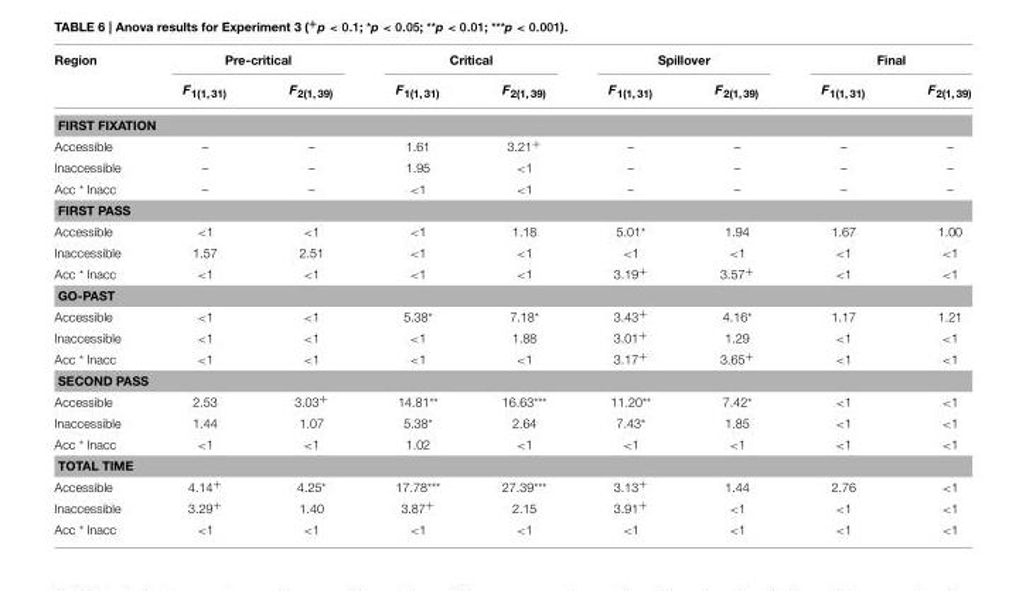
<table><thead><tr><td rowspan="2">Region</td><td colspan="2">Pre-critical</td><td colspan="2">Critical</td><td colspan="2">Spillover</td><td colspan="2">Final</td></tr><tr><td>F<sub>1(1, 31)</sub></td><td>F<sub>2(1, 39)</sub></td><td>F<sub>1(1, 31)</sub></td><td>F<sub>2(1, 39)</sub></td><td>F<sub>1(1, 31)</sub></td><td>F<sub>2(1, 39)</sub></td><td>F<sub>1(1, 31)</sub></td><td>F<sub>2(1, 39)</sub></td></tr></thead><tbody><tr><td colspan="9">FIRST FIXATION</td></tr><tr><td>Accessible</td><td>–</td><td>–</td><td>1.61</td><td>3.21<sup>+</sup></td><td>–</td><td>–</td><td>–</td><td>–</td></tr><tr><td>Inaccessible</td><td>–</td><td>–</td><td>1.95</td><td>&lt;1</td><td>–</td><td>–</td><td>–</td><td>–</td></tr><tr><td>Acc * Inacc</td><td>–</td><td>–</td><td>&lt;1</td><td>&lt;1</td><td>–</td><td>–</td><td>–</td><td>–</td></tr><tr><td colspan="9">FIRST PASS</td></tr><tr><td>Accessible</td><td>&lt;1</td><td>&lt;1</td><td>&lt;1</td><td>1.18</td><td>5.01*</td><td>1.94</td><td>1.67</td><td>1.00</td></tr><tr><td>Inaccessible</td><td>1.57</td><td>2.51</td><td>&lt;1</td><td>&lt;1</td><td>&lt;1</td><td>&lt;1</td><td>&lt;1</td><td>&lt;1</td></tr><tr><td>Acc * Inacc</td><td>&lt;1</td><td>&lt;1</td><td>&lt;1</td><td>&lt;1</td><td>3.19<sup>+</sup></td><td>3.57<sup>+</sup></td><td>&lt;1</td><td>&lt;1</td></tr><tr><td colspan="9">GO-PAST</td></tr><tr><td>Accessible</td><td>&lt;1</td><td>&lt;1</td><td>5.38*</td><td>7.18*</td><td>3.43<sup>+</sup></td><td>4.16*</td><td>1.17</td><td>1.21</td></tr><tr><td>Inaccessible</td><td>&lt;1</td><td>&lt;1</td><td>&lt;1</td><td>1.88</td><td>3.01<sup>+</sup></td><td>1.29</td><td>&lt;1</td><td>&lt;1</td></tr><tr><td>Acc * Inacc</td><td>&lt;1</td><td>&lt;1</td><td>&lt;1</td><td>&lt;1</td><td>3.17<sup>+</sup></td><td>3.65<sup>+</sup></td><td>&lt;1</td><td>&lt;1</td></tr><tr><td colspan="9">SECOND PASS</td></tr><tr><td>Accessible</td><td>2.53</td><td>3.03<sup>+</sup></td><td>14.81**</td><td>16.63***</td><td>11.20**</td><td>7.42*</td><td>&lt;1</td><td>&lt;1</td></tr><tr><td>Inaccessible</td><td>1.44</td><td>1.07</td><td>5.38*</td><td>2.64</td><td>7.43*</td><td>1.85</td><td>&lt;1</td><td>&lt;1</td></tr><tr><td>Acc * Inacc</td><td>&lt;1</td><td>&lt;1</td><td>1.02</td><td>&lt;1</td><td>&lt;1</td><td>&lt;1</td><td>&lt;1</td><td>&lt;1</td></tr><tr><td colspan="9">TOTAL TIME</td></tr><tr><td>Accessible</td><td>4.14<sup>+</sup></td><td>4.25*</td><td>17.78***</td><td>27.39***</td><td>3.13<sup>+</sup></td><td>1.44</td><td>2.76</td><td>&lt;1</td></tr><tr><td>Inaccessible</td><td>3.29<sup>+</sup></td><td>1.40</td><td>3.87<sup>+</sup></td><td>2.15</td><td>3.91<sup>+</sup></td><td>&lt;1</td><td>&lt;1</td><td>&lt;1</td></tr><tr><td>Acc * Inacc</td><td>&lt;1</td><td>&lt;1</td><td>&lt;1</td><td>&lt;1</td><td>&lt;1</td><td>&lt;1</td><td>&lt;1</td><td>&lt;1</td></tr></tbody></table>